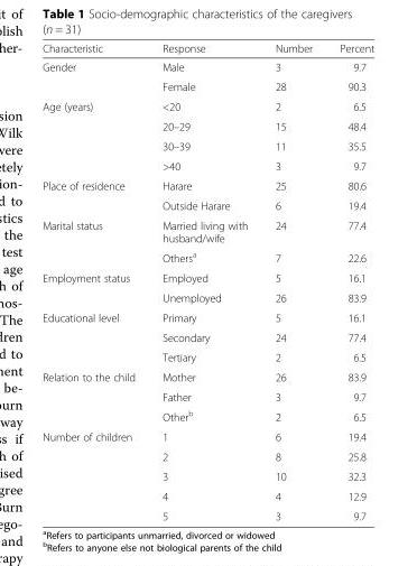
<table><thead><tr><td>Characteristic</td><td>Response</td><td>Number</td><td>Percent</td></tr></thead><tbody><tr><td rowspan="2">Gender</td><td>Male</td><td>3</td><td>9.7</td></tr><tr><td>Female</td><td>28</td><td>90.3</td></tr><tr><td rowspan="4">Age (years)</td><td>&lt;20</td><td>2</td><td>6.5</td></tr><tr><td>20–29</td><td>15</td><td>48.4</td></tr><tr><td>30–39</td><td>11</td><td>35.5</td></tr><tr><td>&gt;40</td><td>3</td><td>9.7</td></tr><tr><td rowspan="2">Place of residence</td><td>Harare</td><td>25</td><td>80.6</td></tr><tr><td>Outside Harare</td><td>6</td><td>19.4</td></tr><tr><td rowspan="2">Marital status</td><td>Married living with husband/wife</td><td>24</td><td>77.4</td></tr><tr><td>Others<sup>a</sup></td><td>7</td><td>22.6</td></tr><tr><td rowspan="2">Employment status</td><td>Employed</td><td>5</td><td>16.1</td></tr><tr><td>Unemployed</td><td>26</td><td>83.9</td></tr><tr><td rowspan="3">Educational level</td><td>Primary</td><td>5</td><td>16.1</td></tr><tr><td>Secondary</td><td>24</td><td>77.4</td></tr><tr><td>Tertiary</td><td>2</td><td>6.5</td></tr><tr><td rowspan="3">Relation to the child</td><td>Mother</td><td>26</td><td>83.9</td></tr><tr><td>Father</td><td>3</td><td>9.7</td></tr><tr><td>Other<sup>b</sup></td><td>2</td><td>6.5</td></tr><tr><td rowspan="5">Number of children</td><td>1</td><td>6</td><td>19.4</td></tr><tr><td>2</td><td>8</td><td>25.8</td></tr><tr><td>3</td><td>10</td><td>32.3</td></tr><tr><td>4</td><td>4</td><td>12.9</td></tr><tr><td>5</td><td>3</td><td>9.7</td></tr></tbody></table>